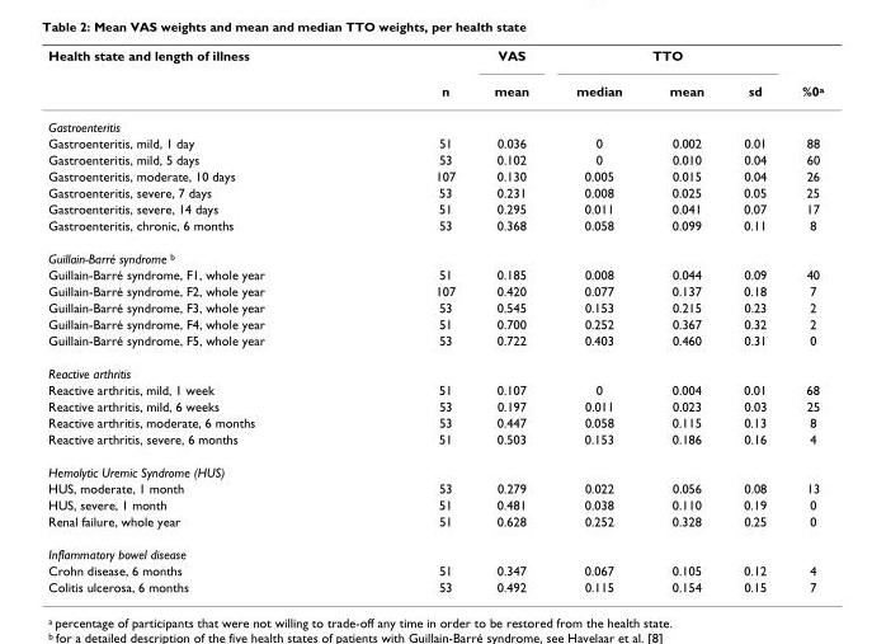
<table><thead><tr><td rowspan="2">Health state and length of illness</td><td rowspan="2">n</td><td rowspan="2">VAS mean</td><td colspan="3">TTO</td><td rowspan="2">%0<sup>a</sup></td></tr><tr><td>median</td><td>mean</td><td>sd</td></tr></thead><tbody><tr><td colspan="7">Gastroenteritis</td></tr><tr><td>Gastroenteritis, mild, 1 day</td><td>51</td><td>0.036</td><td>0</td><td>0.002</td><td>0.01</td><td>88</td></tr><tr><td>Gastroenteritis, mild, 5 days</td><td>53</td><td>0.102</td><td>0</td><td>0.010</td><td>0.04</td><td>60</td></tr><tr><td>Gastroenteritis, moderate, 10 days</td><td>107</td><td>0.130</td><td>0.005</td><td>0.015</td><td>0.04</td><td>26</td></tr><tr><td>Gastroenteritis, severe, 7 days</td><td>53</td><td>0.231</td><td>0.008</td><td>0.025</td><td>0.05</td><td>25</td></tr><tr><td>Gastroenteritis, severe, 14 days</td><td>51</td><td>0.295</td><td>0.011</td><td>0.041</td><td>0.07</td><td>17</td></tr><tr><td>Gastroenteritis, chronic, 6 months</td><td>53</td><td>0.368</td><td>0.058</td><td>0.099</td><td>0.11</td><td>8</td></tr><tr><td colspan="7">Guillain-Barré syndrome <sup>b</sup></td></tr><tr><td>Guillain-Barré syndrome, F1, whole year</td><td>51</td><td>0.185</td><td>0.008</td><td>0.044</td><td>0.09</td><td>40</td></tr><tr><td>Guillain-Barré syndrome, F2, whole year</td><td>107</td><td>0.420</td><td>0.077</td><td>0.137</td><td>0.18</td><td>7</td></tr><tr><td>Guillain-Barré syndrome, F3, whole year</td><td>53</td><td>0.545</td><td>0.153</td><td>0.215</td><td>0.23</td><td>2</td></tr><tr><td>Guillain-Barré syndrome, F4, whole year</td><td>51</td><td>0.700</td><td>0.252</td><td>0.367</td><td>0.32</td><td>2</td></tr><tr><td>Guillain-Barré syndrome, F5, whole year</td><td>53</td><td>0.722</td><td>0.403</td><td>0.460</td><td>0.31</td><td>0</td></tr><tr><td colspan="7">Reactive arthritis</td></tr><tr><td>Reactive arthritis, mild, 1 week</td><td>51</td><td>0.107</td><td>0</td><td>0.004</td><td>0.01</td><td>68</td></tr><tr><td>Reactive arthritis, mild, 6 weeks</td><td>53</td><td>0.197</td><td>0.011</td><td>0.023</td><td>0.03</td><td>25</td></tr><tr><td>Reactive arthritis, moderate, 6 months</td><td>53</td><td>0.447</td><td>0.058</td><td>0.115</td><td>0.13</td><td>8</td></tr><tr><td>Reactive arthritis, severe, 6 months</td><td>51</td><td>0.503</td><td>0.153</td><td>0.186</td><td>0.16</td><td>4</td></tr><tr><td colspan="7">Hemolytic Uremic Syndrome (HUS)</td></tr><tr><td>HUS, moderate, 1 month</td><td>53</td><td>0.279</td><td>0.022</td><td>0.056</td><td>0.08</td><td>13</td></tr><tr><td>HUS, severe, 1 month</td><td>51</td><td>0.481</td><td>0.038</td><td>0.110</td><td>0.19</td><td>0</td></tr><tr><td>Renal failure, whole year</td><td>51</td><td>0.628</td><td>0.252</td><td>0.328</td><td>0.25</td><td>0</td></tr><tr><td colspan="7">Inflammatory bowel disease</td></tr><tr><td>Crohn disease, 6 months</td><td>51</td><td>0.347</td><td>0.067</td><td>0.105</td><td>0.12</td><td>4</td></tr><tr><td>Colitis ulcerosa, 6 months</td><td>53</td><td>0.492</td><td>0.115</td><td>0.154</td><td>0.15</td><td>7</td></tr></tbody></table>